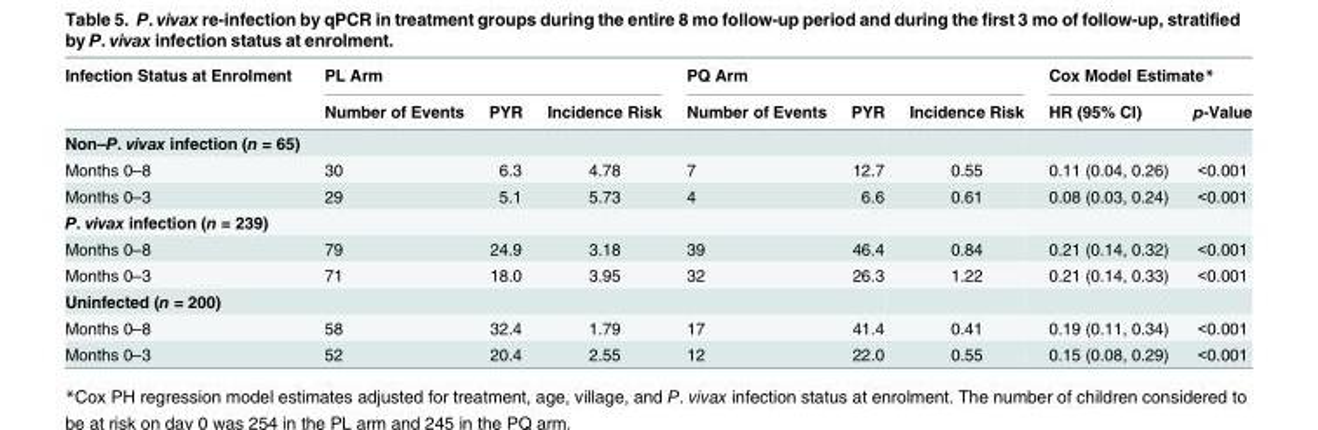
<table><thead><tr><td rowspan="2">Infection Status at Enrolment</td><td colspan="3">PL Arm</td><td colspan="3">PQ Arm</td><td colspan="2">Cox Model Estimate*</td></tr><tr><td>Number of Events</td><td>PYR</td><td>Incidence Risk</td><td>Number of Events</td><td>PYR</td><td>Incidence Risk</td><td>HR (95% CI)</td><td>p-Value</td></tr></thead><tbody><tr><td colspan="9">Non–P. vivax infection (n = 65)</td></tr><tr><td>Months 0–8</td><td>30</td><td>6.3</td><td>4.78</td><td>7</td><td>12.7</td><td>0.55</td><td>0.11 (0.04, 0.26)</td><td>&lt;0.001</td></tr><tr><td>Months 0–3</td><td>29</td><td>5.1</td><td>5.73</td><td>4</td><td>6.6</td><td>0.61</td><td>0.08 (0.03, 0.24)</td><td>&lt;0.001</td></tr><tr><td colspan="9">P. vivax infection (n = 239)</td></tr><tr><td>Months 0–8</td><td>79</td><td>24.9</td><td>3.18</td><td>39</td><td>46.4</td><td>0.84</td><td>0.21 (0.14, 0.32)</td><td>&lt;0.001</td></tr><tr><td>Months 0–3</td><td>71</td><td>18.0</td><td>3.95</td><td>32</td><td>26.3</td><td>1.22</td><td>0.21 (0.14, 0.33)</td><td>&lt;0.001</td></tr><tr><td colspan="9">Uninfected (n = 200)</td></tr><tr><td>Months 0–8</td><td>58</td><td>32.4</td><td>1.79</td><td>17</td><td>41.4</td><td>0.41</td><td>0.19 (0.11, 0.34)</td><td>&lt;0.001</td></tr><tr><td>Months 0–3</td><td>52</td><td>20.4</td><td>2.55</td><td>12</td><td>22.0</td><td>0.55</td><td>0.15 (0.08, 0.29)</td><td>&lt;0.001</td></tr></tbody></table>